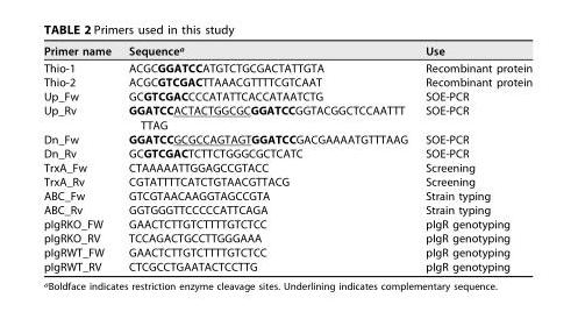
<table><thead><tr><td>Primer name</td><td>Sequence<sup>a</sup></td><td>Use</td></tr></thead><tbody><tr><td>Thio-1</td><td>ACGCGGATCCATGTCTGCGACTATTGTA</td><td>Recombinant protein</td></tr><tr><td>Thio-2</td><td>ACGCGTCGACTTAAACGTTTTCGTCAAT</td><td>Recombinant protein</td></tr><tr><td>Up_Fw</td><td>GCGTCGACCCCATATTCACCATAATCTG</td><td>SOE-PCR</td></tr><tr><td>Up_Rv</td><td>GGATCCACTACTGGCGCGGATCCGGTACGGCTCCAATTT TTAG</td><td>SOE-PCR</td></tr><tr><td>Dn_Fw</td><td>GGATCCGCGCCAGTAGTGGATCCGACGAAAATGTTTAAG</td><td>SOE-PCR</td></tr><tr><td>Dn_Rv</td><td>GCGTCGACTCTTCTGGGCGCTCATC</td><td>SOE-PCR</td></tr><tr><td>TrxA_Fw</td><td>CTAAAAATTGGAGCCGTACC</td><td>Screening</td></tr><tr><td>TrxA_Rv</td><td>CGTATTTTCATCTGTAACGTTACG</td><td>Screening</td></tr><tr><td>ABC_Fw</td><td>GTCGTAACAAGGTAGCCGTA</td><td>Strain typing</td></tr><tr><td>ABC_Rv</td><td>GGTGGGTTCCCCCATTCAGA</td><td>Strain typing</td></tr><tr><td>pIgRKO_FW</td><td>GAACTCTTGTCTTTTGTCTCC</td><td>pIgR genotyping</td></tr><tr><td>pIgRKO_RV</td><td>TCCAGACTGCCTTGGGAAA</td><td>pIgR genotyping</td></tr><tr><td>pIgRWT_FW</td><td>GAACTCTTGTCTTTTGTCTCC</td><td>pIgR genotyping</td></tr><tr><td>pIgRWT_RV</td><td>CTCGCCTGAATACTCCTTG</td><td>pIgR genotyping</td></tr></tbody></table>